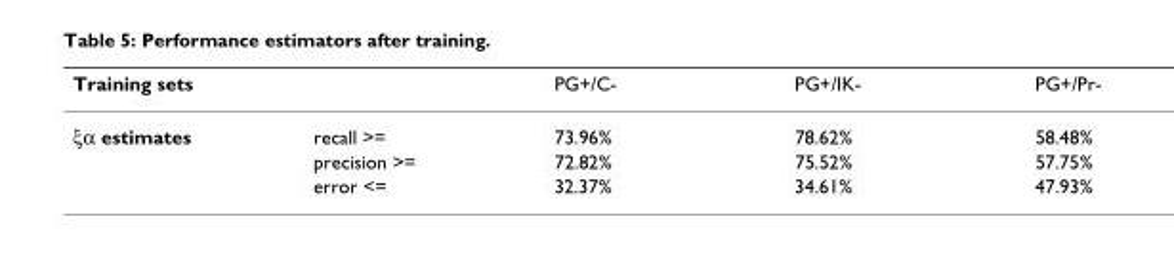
<table><thead><tr><td>Training sets</td><td></td><td>PG+/C-</td><td>PG+/IK-</td><td>PG+/Pr-</td></tr></thead><tbody><tr><td rowspan="3">ξα estimates</td><td>recall &gt;=</td><td>73.96%</td><td>78.62%</td><td>58.48%</td></tr><tr><td>precision &gt;=</td><td>72.82%</td><td>75.52%</td><td>57.75%</td></tr><tr><td>error &lt;=</td><td>32.37%</td><td>34.61%</td><td>47.93%</td></tr></tbody></table>